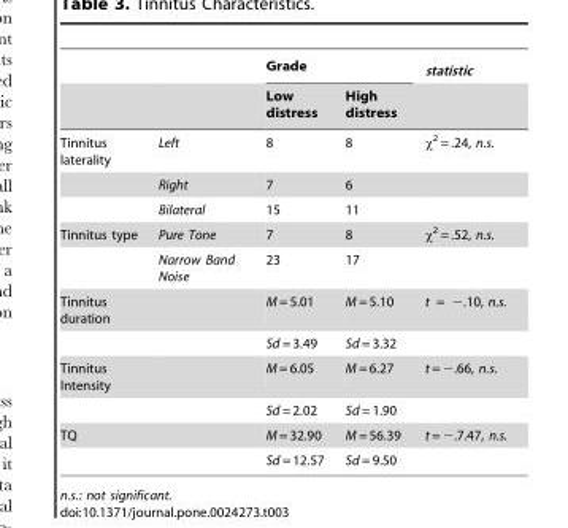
<table><thead><tr><td rowspan="2"></td><td rowspan="2"></td><td colspan="2">Grade</td><td rowspan="2">statistic</td></tr><tr><td>Low distress</td><td>High distress</td></tr></thead><tbody><tr><td rowspan="3">Tinnitus laterality</td><td>Left</td><td>8</td><td>8</td><td>χ<sup>2</sup> = .24, n.s.</td></tr><tr><td>Right</td><td>7</td><td>6</td><td></td></tr><tr><td>Bilateral</td><td>15</td><td>11</td><td></td></tr><tr><td rowspan="2">Tinnitus type</td><td>Pure Tone</td><td>7</td><td>8</td><td>χ<sup>2</sup> = .52, n.s.</td></tr><tr><td>Narrow Band Noise</td><td>23</td><td>17</td><td></td></tr><tr><td rowspan="2">Tinnitus duration</td><td></td><td>M = 5.01</td><td>M = 5.10</td><td>t = −.10, n.s.</td></tr><tr><td></td><td>Sd = 3.49</td><td>Sd = 3.32</td><td></td></tr><tr><td rowspan="2">Tinnitus Intensity</td><td></td><td>M = 6.05</td><td>M = 6.27</td><td>t = −.66, n.s.</td></tr><tr><td></td><td>Sd = 2.02</td><td>Sd = 1.90</td><td></td></tr><tr><td rowspan="2">TQ</td><td></td><td>M = 32.90</td><td>M = 56.39</td><td>t = −.7.47, n.s.</td></tr><tr><td></td><td>Sd = 12.57</td><td>Sd = 9.50</td><td></td></tr></tbody></table>